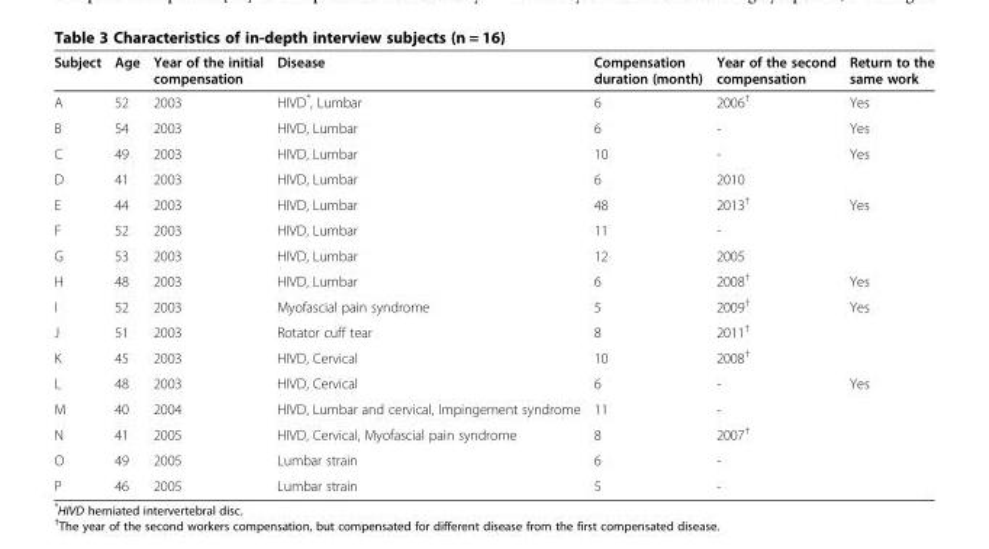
<table><thead><tr><td>Subject</td><td>Age</td><td>Year of the initial compensation</td><td>Disease</td><td>Compensation duration (month)</td><td>Year of the second compensation</td><td>Return to the same work</td></tr></thead><tbody><tr><td>A</td><td>52</td><td>2003</td><td>HIVD*, Lumbar</td><td>6</td><td>2006<sup>†</sup></td><td>Yes</td></tr><tr><td>B</td><td>54</td><td>2003</td><td>HIVD, Lumbar</td><td>6</td><td>-</td><td>Yes</td></tr><tr><td>C</td><td>49</td><td>2003</td><td>HIVD, Lumbar</td><td>10</td><td>-</td><td>Yes</td></tr><tr><td>D</td><td>41</td><td>2003</td><td>HIVD, Lumbar</td><td>6</td><td>2010</td><td></td></tr><tr><td>E</td><td>44</td><td>2003</td><td>HIVD, Lumbar</td><td>48</td><td>2013<sup>†</sup></td><td>Yes</td></tr><tr><td>F</td><td>52</td><td>2003</td><td>HIVD, Lumbar</td><td>11</td><td>-</td><td></td></tr><tr><td>G</td><td>53</td><td>2003</td><td>HIVD, Lumbar</td><td>12</td><td>2005</td><td></td></tr><tr><td>H</td><td>48</td><td>2003</td><td>HIVD, Lumbar</td><td>6</td><td>2008<sup>†</sup></td><td>Yes</td></tr><tr><td>I</td><td>52</td><td>2003</td><td>Myofascial pain syndrome</td><td>5</td><td>2009<sup>†</sup></td><td>Yes</td></tr><tr><td>J</td><td>51</td><td>2003</td><td>Rotator cuff tear</td><td>8</td><td>2011<sup>†</sup></td><td></td></tr><tr><td>K</td><td>45</td><td>2003</td><td>HIVD, Cervical</td><td>10</td><td>2008<sup>†</sup></td><td></td></tr><tr><td>L</td><td>48</td><td>2003</td><td>HIVD, Cervical</td><td>6</td><td>-</td><td>Yes</td></tr><tr><td>M</td><td>40</td><td>2004</td><td>HIVD, Lumbar and cervical, Impingement syndrome</td><td>11</td><td>-</td><td></td></tr><tr><td>N</td><td>41</td><td>2005</td><td>HIVD, Cervical, Myofascial pain syndrome</td><td>8</td><td>2007<sup>†</sup></td><td></td></tr><tr><td>O</td><td>49</td><td>2005</td><td>Lumbar strain</td><td>6</td><td>-</td><td></td></tr><tr><td>P</td><td>46</td><td>2005</td><td>Lumbar strain</td><td>5</td><td>-</td><td></td></tr></tbody></table>